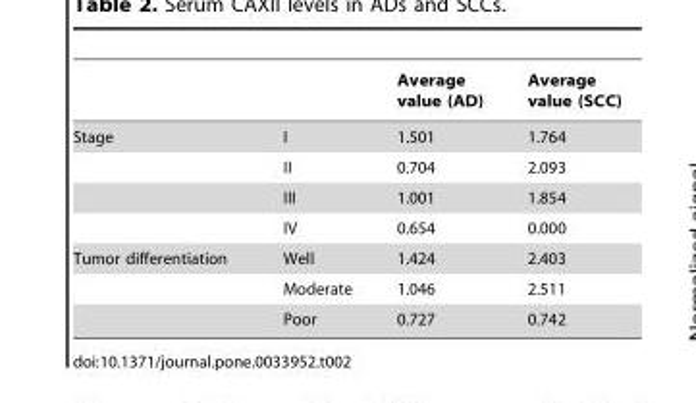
<table><thead><tr><td></td><td></td><td>Average value (AD)</td><td>Average value (SCC)</td></tr></thead><tbody><tr><td rowspan="4">Stage</td><td>I</td><td>1.501</td><td>1.764</td></tr><tr><td>II</td><td>0.704</td><td>2.093</td></tr><tr><td>III</td><td>1.001</td><td>1.854</td></tr><tr><td>IV</td><td>0.654</td><td>0.000</td></tr><tr><td rowspan="3">Tumor differentiation</td><td>Well</td><td>1.424</td><td>2.403</td></tr><tr><td>Moderate</td><td>1.046</td><td>2.511</td></tr><tr><td>Poor</td><td>0.727</td><td>0.742</td></tr></tbody></table>